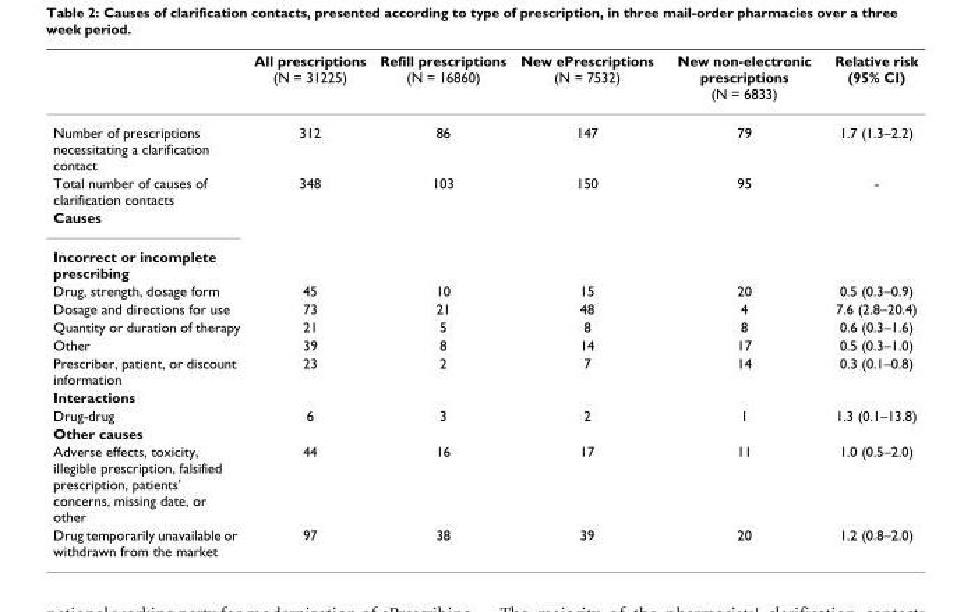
<table><thead><tr><td></td><td>All prescriptions (N = 31225)</td><td>Refill prescriptions (N = 16860)</td><td>New ePrescriptions (N = 7532)</td><td>New non-electronic prescriptions (N = 6833)</td><td>Relative risk (95% CI)</td></tr></thead><tbody><tr><td>Number of prescriptions necessitating a clarification contact</td><td>312</td><td>86</td><td>147</td><td>79</td><td>1.7 (1.3–2.2)</td></tr><tr><td>Total number of causes of clarification contacts</td><td>348</td><td>103</td><td>150</td><td>95</td><td>-</td></tr><tr><td colspan="6">Causes</td></tr><tr><td colspan="6">Incorrect or incomplete prescribing</td></tr><tr><td>Drug, strength, dosage form</td><td>45</td><td>10</td><td>15</td><td>20</td><td>0.5 (0.3–0.9)</td></tr><tr><td>Dosage and directions for use</td><td>73</td><td>21</td><td>48</td><td>4</td><td>7.6 (2.8–20.4)</td></tr><tr><td>Quantity or duration of therapy</td><td>21</td><td>5</td><td>8</td><td>8</td><td>0.6 (0.3–1.6)</td></tr><tr><td>Other</td><td>39</td><td>8</td><td>14</td><td>17</td><td>0.5 (0.3–1.0)</td></tr><tr><td>Prescriber, patient, or discount information</td><td>23</td><td>2</td><td>7</td><td>14</td><td>0.3 (0.1–0.8)</td></tr><tr><td colspan="6">Interactions</td></tr><tr><td>Drug-drug</td><td>6</td><td>3</td><td>2</td><td>1</td><td>1.3 (0.1–13.8)</td></tr><tr><td colspan="6">Other causes</td></tr><tr><td>Adverse effects, toxicity, illegible prescription, falsified prescription, patients&#x27; concerns, missing date, or other</td><td>44</td><td>16</td><td>17</td><td>11</td><td>1.0 (0.5–2.0)</td></tr><tr><td>Drug temporarily unavailable or withdrawn from the market</td><td>97</td><td>38</td><td>39</td><td>20</td><td>1.2 (0.8–2.0)</td></tr></tbody></table>